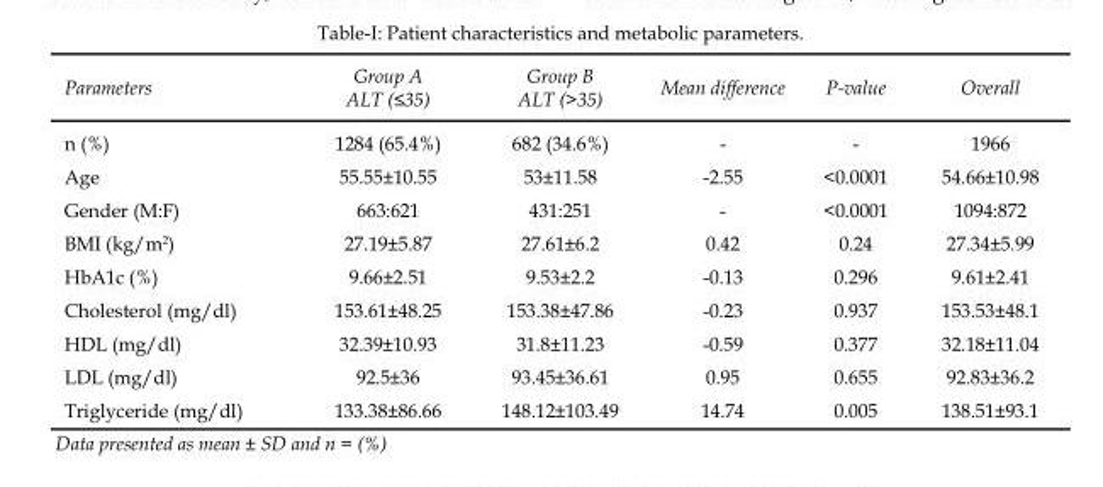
<table><thead><tr><td>Parameters</td><td>Group A ALT (≤35)</td><td>Group B ALT (&gt;35)</td><td>Mean difference</td><td>P-value</td><td>Overall</td></tr></thead><tbody><tr><td>n (%)</td><td>1284 (65.4%)</td><td>682 (34.6%)</td><td>-</td><td>-</td><td>1966</td></tr><tr><td>Age</td><td>55.55±10.55</td><td>53±11.58</td><td>-2.55</td><td>&lt;0.0001</td><td>54.66±10.98</td></tr><tr><td>Gender (M:F)</td><td>663:621</td><td>431:251</td><td>-</td><td>&lt;0.0001</td><td>1094:872</td></tr><tr><td>BMI (kg/m<sup>2</sup>)</td><td>27.19±5.87</td><td>27.61±6.2</td><td>0.42</td><td>0.24</td><td>27.34±5.99</td></tr><tr><td>HbA1c (%)</td><td>9.66±2.51</td><td>9.53±2.2</td><td>-0.13</td><td>0.296</td><td>9.61±2.41</td></tr><tr><td>Cholesterol (mg/dl)</td><td>153.61±48.25</td><td>153.38±47.86</td><td>-0.23</td><td>0.937</td><td>153.53±48.1</td></tr><tr><td>HDL (mg/dl)</td><td>32.39±10.93</td><td>31.8±11.23</td><td>-0.59</td><td>0.377</td><td>32.18±11.04</td></tr><tr><td>LDL (mg/dl)</td><td>92.5±36</td><td>93.45±36.61</td><td>0.95</td><td>0.655</td><td>92.83±36.2</td></tr><tr><td>Triglyceride (mg/dl)</td><td>133.38±86.66</td><td>148.12±103.49</td><td>14.74</td><td>0.005</td><td>138.51±93.1</td></tr></tbody></table>